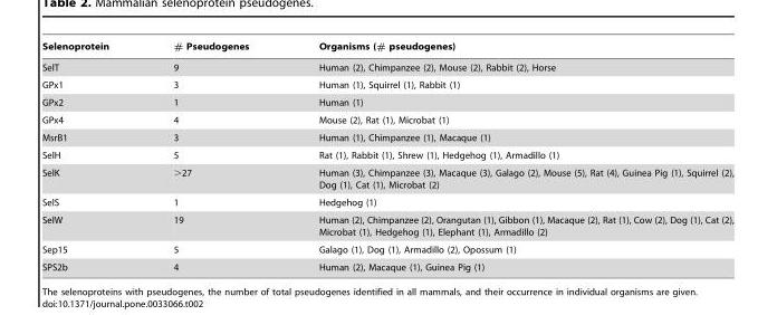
<table><thead><tr><td>Selenoprotein</td><td># Pseudogenes</td><td>Organisms (# pseudogenes)</td></tr></thead><tbody><tr><td>SelT</td><td>9</td><td>Human (2), Chimpanzee (2), Mouse (2), Rabbit (2), Horse</td></tr><tr><td>GPx1</td><td>3</td><td>Human (1), Squirrel (1), Rabbit (1)</td></tr><tr><td>GPx2</td><td>1</td><td>Human (1)</td></tr><tr><td>GPx4</td><td>4</td><td>Mouse (2), Rat (1), Microbat (1)</td></tr><tr><td>MsrB1</td><td>3</td><td>Human (1), Chimpanzee (1), Macaque (1)</td></tr><tr><td>SelH</td><td>5</td><td>Rat (1), Rabbit (1), Shrew (1), Hedgehog (1), Armadillo (1)</td></tr><tr><td>SelK</td><td>&gt;27</td><td>Human (3), Chimpanzee (3), Macaque (3), Galago (2), Mouse (5), Rat (4), Guinea Pig (1), Squirrel (2), Dog (1), Cat (1), Microbat (2)</td></tr><tr><td>SelS</td><td>1</td><td>Hedgehog (1)</td></tr><tr><td>SelW</td><td>19</td><td>Human (2), Chimpanzee (2), Orangutan (1), Gibbon (1), Macaque (2), Rat (1), Cow (2), Dog (1), Cat (2), Microbat (1), Hedgehog (1), Elephant (1), Armadillo (2)</td></tr><tr><td>Sep15</td><td>5</td><td>Galago (1), Dog (1), Armadillo (2), Opossum (1)</td></tr><tr><td>SPS2b</td><td>4</td><td>Human (2), Macaque (1), Guinea Pig (1)</td></tr></tbody></table>